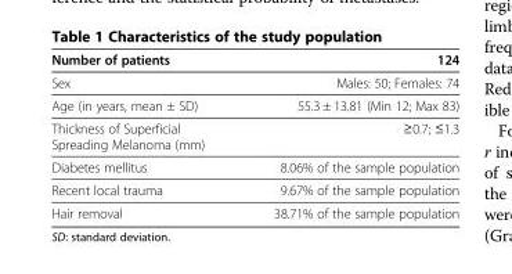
<table><thead><tr><td>Number of patients</td><td>124</td></tr></thead><tbody><tr><td>Sex</td><td>Males: 50; Females: 74</td></tr><tr><td>Age (in years, mean ± SD)</td><td>55.3 ± 13.81 (Min 12; Max 83)</td></tr><tr><td>Thickness of Superficial Spreading Melanoma (mm)</td><td>≥0.7; ≤1.3</td></tr><tr><td>Diabetes mellitus</td><td>8.06% of the sample population</td></tr><tr><td>Recent local trauma</td><td>9.67% of the sample population</td></tr><tr><td>Hair removal</td><td>38.71% of the sample population</td></tr></tbody></table>